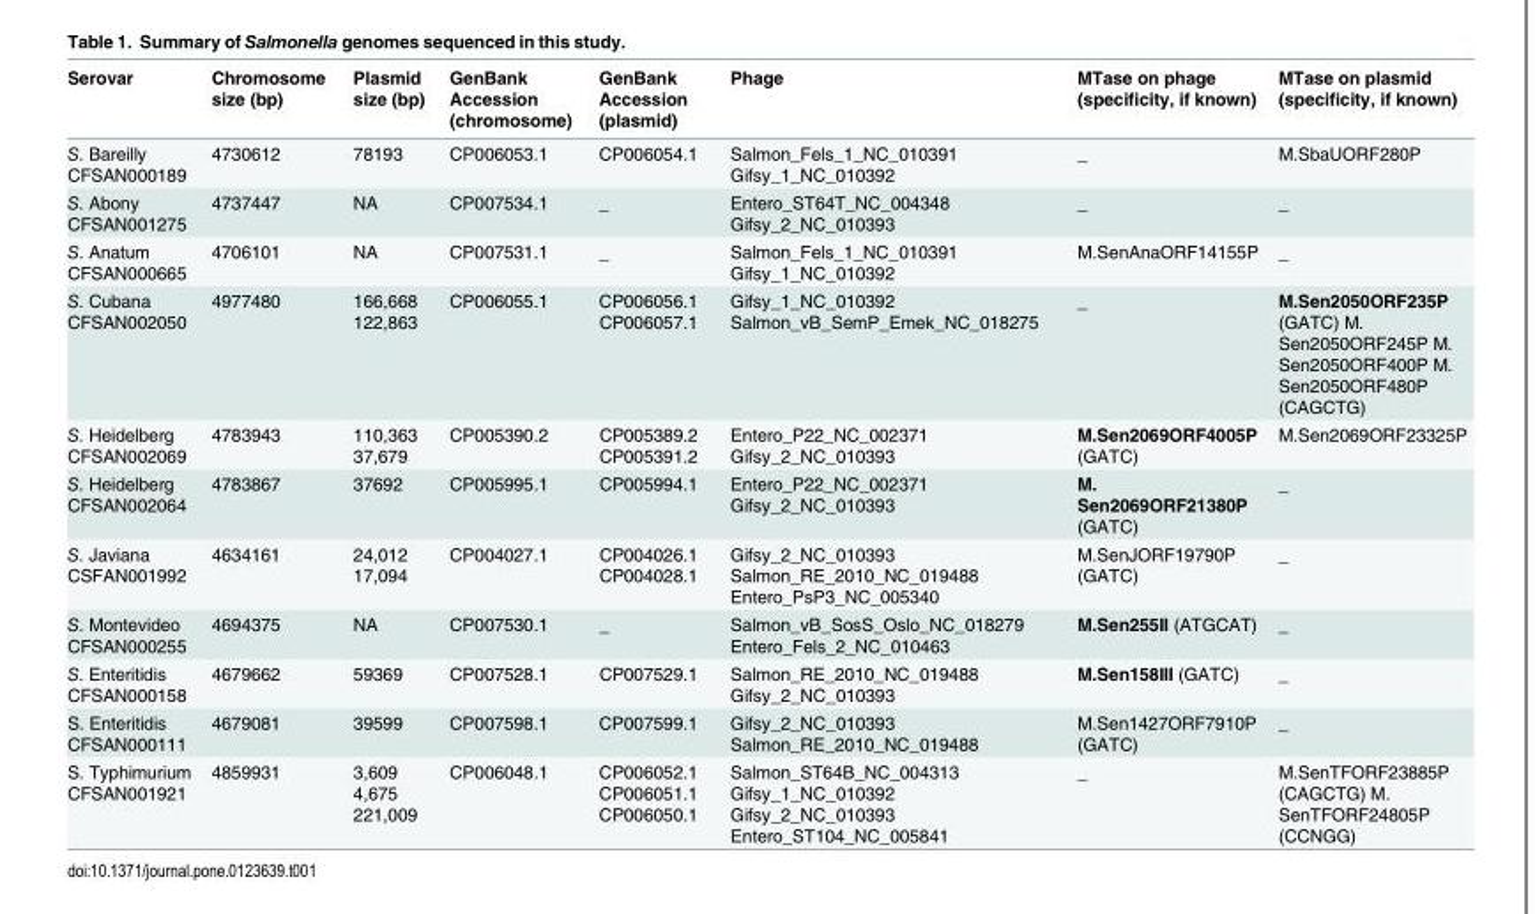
<table><thead><tr><td>Serovar</td><td>Chromosome size (bp)</td><td>Plasmid size (bp)</td><td>GenBank Accession (chromosome)</td><td>GenBank Accession (plasmid)</td><td>Phage</td><td>MTase on phage (specificity, if known)</td><td>MTase on plasmid (specificity, if known)</td></tr></thead><tbody><tr><td>S. Bareilly CFSAN000189</td><td>4730612</td><td>78193</td><td>CP006053.1</td><td>CP006054.1</td><td>Salmon_Fels_1_NC_010391 Gifsy_1_NC_010392</td><td>_</td><td>M.SbaUORF280P</td></tr><tr><td>S. Abony CFSAN001275</td><td>4737447</td><td>NA</td><td>CP007534.1</td><td>_</td><td>Entero_ST64T_NC_004348 Gifsy_2_NC_010393</td><td>_</td><td>_</td></tr><tr><td>S. Anatum CFSAN000665</td><td>4706101</td><td>NA</td><td>CP007531.1</td><td>_</td><td>Salmon_Fels_1_NC_010391 Gifsy_1_NC_010392</td><td>M.SenAnaORF14155P</td><td>_</td></tr><tr><td>S. Cubana CFSAN002050</td><td>4977480</td><td>166,668 122,863</td><td>CP006055.1</td><td>CP006056.1 CP006057.1</td><td>Gifsy_1_NC_010392 Salmon_vB_SemP_Emek_NC_018275</td><td>_</td><td>M.Sen2050ORF235P (GATC) M. Sen2050ORF245P M. Sen2050ORF400P M. Sen2050ORF480P (CAGCTG)</td></tr><tr><td>S. Heidelberg CFSAN002069</td><td>4783943</td><td>110,363 37,679</td><td>CP005390.2</td><td>CP005389.2 CP005391.2</td><td>Entero_P22_NC_002371 Gifsy_2_NC_010393</td><td>M.Sen2069ORF4005P (GATC)</td><td>M.Sen2069ORF23325P</td></tr><tr><td>S. Heidelberg CFSAN002064</td><td>4783867</td><td>37692</td><td>CP005995.1</td><td>CP005994.1</td><td>Entero_P22_NC_002371 Gifsy_2_NC_010393</td><td>M. Sen2069ORF21380P (GATC)</td><td>_</td></tr><tr><td>S. Javiana CSFAN001992</td><td>4634161</td><td>24,012 17,094</td><td>CP004027.1</td><td>CP004026.1 CP004028.1</td><td>Gifsy_2_NC_010393 Salmon_RE_2010_NC_019488 Entero_PsP3_NC_005340</td><td>M.SenJORF19790P (GATC)</td><td>_</td></tr><tr><td>S. Montevideo CFSAN000255</td><td>4694375</td><td>NA</td><td>CP007530.1</td><td>_</td><td>Salmon_vB_SosS_Oslo_NC_018279 Entero_Fels_2_NC_010463</td><td>M.Sen255II (ATGCAT)</td><td>_</td></tr><tr><td>S. Enteritidis CFSAN000158</td><td>4679662</td><td>59369</td><td>CP007528.1</td><td>CP007529.1</td><td>Salmon_RE_2010_NC_019488 Gifsy_2_NC_010393</td><td>M.Sen158III (GATC)</td><td>_</td></tr><tr><td>S. Enteritidis CFSAN000111</td><td>4679081</td><td>39599</td><td>CP007598.1</td><td>CP007599.1</td><td>Gifsy_2_NC_010393 Salmon_RE_2010_NC_019488</td><td>M.Sen1427ORF7910P (GATC)</td><td>_</td></tr><tr><td>S. Typhimurium CFSAN001921</td><td>4859931</td><td>3,609 4,675 221,009</td><td>CP006048.1</td><td>CP006052.1 CP006051.1 CP006050.1</td><td>Salmon_ST64B_NC_004313 Gifsy_1_NC_010392 Gifsy_2_NC_010393 Entero_ST104_NC_005841</td><td>_</td><td>M.SenTFORF23885P (CAGCTG) M. SenTFORF24805P (CCNGG)</td></tr></tbody></table>